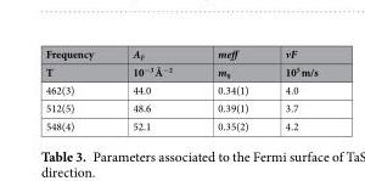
<table><thead><tr><td rowspan="2">Frequency T</td><td rowspan="2">A<sub>F</sub> 10<sup>−3</sup> Å<sup>−2</sup></td><td rowspan="2">meff m<sub>0</sub></td><td rowspan="2">vF 10<sup>5</sup> m/s</td></tr><tr></tr></thead><tbody><tr><td>462(3)</td><td>44.0</td><td>0.34(1)</td><td>4.0</td></tr><tr><td>512(5)</td><td>48.6</td><td>0.39(1)</td><td>3.7</td></tr><tr><td>548(4)</td><td>52.1</td><td>0.35(2)</td><td>4.2</td></tr></tbody></table>